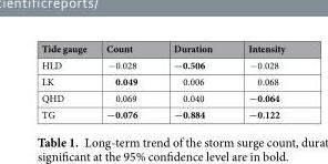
<table><thead><tr><td>Tide gauge</td><td>Count</td><td>Duration</td><td>Intensity</td></tr></thead><tbody><tr><td>HLD</td><td>−0.028</td><td>−0.506</td><td>−0.028</td></tr><tr><td>LK</td><td>0.049</td><td>0.006</td><td>0.068</td></tr><tr><td>QHD</td><td>0.069</td><td>0.040</td><td>−0.064</td></tr><tr><td>TG</td><td>−0.076</td><td>−0.884</td><td>−0.122</td></tr></tbody></table>